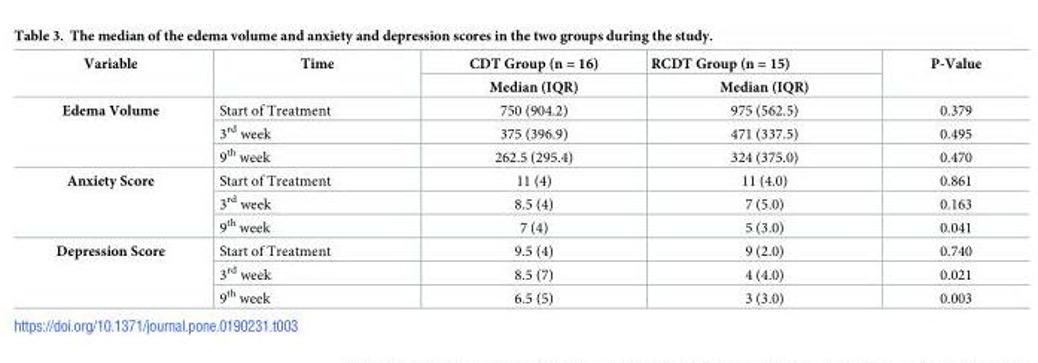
<table><thead><tr><td rowspan="2">Variable</td><td rowspan="2">Time</td><td rowspan="2">CDT Group (n = 16) Median (IQR)</td><td rowspan="2">RCDT Group (n = 15) Median (IQR)</td><td rowspan="2">P-Value</td></tr><tr></tr></thead><tbody><tr><td rowspan="3">Edema Volume</td><td>Start of Treatment</td><td>750 (904.2)</td><td>975 (562.5)</td><td>0.379</td></tr><tr><td>3<sup>rd</sup> week</td><td>375 (396.9)</td><td>471 (337.5)</td><td>0.495</td></tr><tr><td>9<sup>th</sup> week</td><td>262.5 (295.4)</td><td>324 (375.0)</td><td>0.470</td></tr><tr><td rowspan="3">Anxiety Score</td><td>Start of Treatment</td><td>11 (4)</td><td>11 (4.0)</td><td>0.861</td></tr><tr><td>3<sup>rd</sup> week</td><td>8.5 (4)</td><td>7 (5.0)</td><td>0.163</td></tr><tr><td>9<sup>th</sup> week</td><td>7 (4)</td><td>5 (3.0)</td><td>0.041</td></tr><tr><td rowspan="3">Depression Score</td><td>Start of Treatment</td><td>9.5 (4)</td><td>9 (2.0)</td><td>0.740</td></tr><tr><td>3<sup>rd</sup> week</td><td>8.5 (7)</td><td>4 (4.0)</td><td>0.021</td></tr><tr><td>9<sup>th</sup> week</td><td>6.5 (5)</td><td>3 (3.0)</td><td>0.003</td></tr></tbody></table>